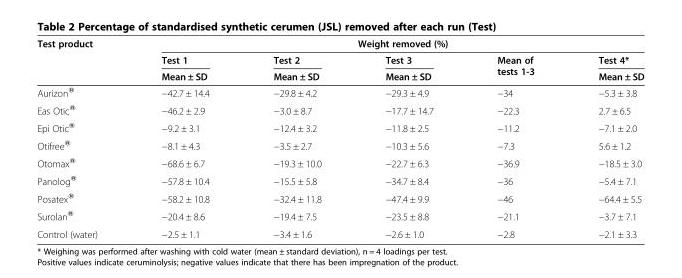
<table><thead><tr><td rowspan="3">Test product</td><td colspan="5">Weight removed (%)</td></tr><tr><td rowspan="2">Test 1 Mean ± SD</td><td rowspan="2">Test 2 Mean ± SD</td><td rowspan="2">Test 3 Mean ± SD</td><td rowspan="2">Mean of tests 1-3</td><td rowspan="2">Test 4* Mean ± SD</td></tr><tr></tr></thead><tbody><tr><td>Aurizon®</td><td>−42.7 ± 14.4</td><td>−29.8 ± 4.2</td><td>−29.3 ± 4.9</td><td>−34</td><td>−5.3 ± 3.8</td></tr><tr><td>Eas Otic®</td><td>−46.2 ± 2.9</td><td>−3.0 ± 8.7</td><td>−17.7 ± 14.7</td><td>−22.3</td><td>2.7 ± 6.5</td></tr><tr><td>Epi Otic®</td><td>−9.2 ± 3.1</td><td>−12.4 ± 3.2</td><td>−11.8 ± 2.5</td><td>−11.2</td><td>−7.1 ± 2.0</td></tr><tr><td>Otifree®</td><td>−8.1 ± 4.3</td><td>−3.5 ± 2.7</td><td>−10.3 ± 5.6</td><td>−7.3</td><td>5.6 ± 1.2</td></tr><tr><td>Otomax®</td><td>−68.6 ± 6.7</td><td>−19.3 ± 10.0</td><td>−22.7 ± 6.3</td><td>−36.9</td><td>−18.5 ± 3.0</td></tr><tr><td>Panolog®</td><td>−57.8 ± 10.4</td><td>−15.5 ± 5.8</td><td>−34.7 ± 8.4</td><td>−36</td><td>−5.4 ± 7.1</td></tr><tr><td>Posatex®</td><td>−58.2 ± 10.8</td><td>−32.4 ± 11.8</td><td>−47.4 ± 9.9</td><td>−46</td><td>−64.4 ± 5.5</td></tr><tr><td>Surolan®</td><td>−20.4 ± 8.6</td><td>−19.4 ± 7.5</td><td>−23.5 ± 8.8</td><td>−21.1</td><td>−3.7 ± 7.1</td></tr><tr><td>Control (water)</td><td>−2.5 ± 1.1</td><td>−3.4 ± 1.6</td><td>−2.6 ± 1.0</td><td>−2.8</td><td>−2.1 ± 3.3</td></tr></tbody></table>